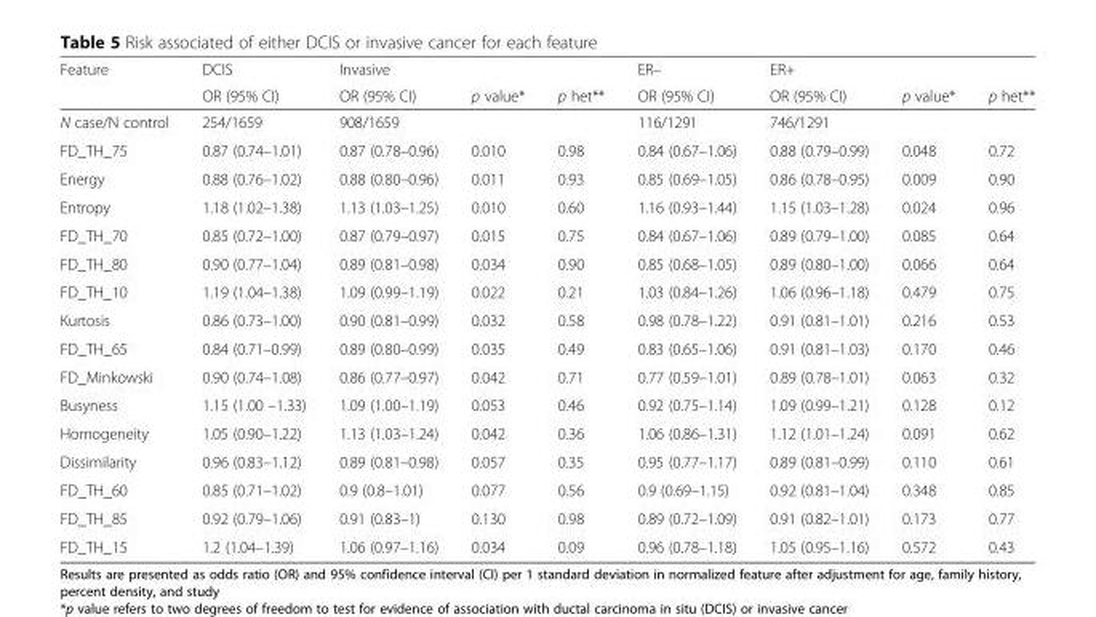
<table><thead><tr><td rowspan="2">Feature</td><td rowspan="2">DCIS OR (95% CI)</td><td rowspan="2">Invasive OR (95% CI)</td><td rowspan="2">p value*</td><td rowspan="2">p het**</td><td rowspan="2">ER– OR (95% CI)</td><td rowspan="2">ER+ OR (95% CI)</td><td rowspan="2">p value*</td><td rowspan="2">p het**</td></tr><tr></tr></thead><tbody><tr><td>N case/N control</td><td>254/1659</td><td>908/1659</td><td></td><td></td><td>116/1291</td><td>746/1291</td><td></td><td></td></tr><tr><td>FD_TH_75</td><td>0.87 (0.74–1.01)</td><td>0.87 (0.78–0.96)</td><td>0.010</td><td>0.98</td><td>0.84 (0.67–1.06)</td><td>0.88 (0.79–0.99)</td><td>0.048</td><td>0.72</td></tr><tr><td>Energy</td><td>0.88 (0.76–1.02)</td><td>0.88 (0.80–0.96)</td><td>0.011</td><td>0.93</td><td>0.85 (0.69–1.05)</td><td>0.86 (0.78–0.95)</td><td>0.009</td><td>0.90</td></tr><tr><td>Entropy</td><td>1.18 (1.02–1.38)</td><td>1.13 (1.03–1.25)</td><td>0.010</td><td>0.60</td><td>1.16 (0.93–1.44)</td><td>1.15 (1.03–1.28)</td><td>0.024</td><td>0.96</td></tr><tr><td>FD_TH_70</td><td>0.85 (0.72–1.00)</td><td>0.87 (0.79–0.97)</td><td>0.015</td><td>0.75</td><td>0.84 (0.67–1.06)</td><td>0.89 (0.79–1.00)</td><td>0.085</td><td>0.64</td></tr><tr><td>FD_TH_80</td><td>0.90 (0.77–1.04)</td><td>0.89 (0.81–0.98)</td><td>0.034</td><td>0.90</td><td>0.85 (0.68–1.05)</td><td>0.89 (0.80–1.00)</td><td>0.066</td><td>0.64</td></tr><tr><td>FD_TH_10</td><td>1.19 (1.04–1.38)</td><td>1.09 (0.99–1.19)</td><td>0.022</td><td>0.21</td><td>1.03 (0.84–1.26)</td><td>1.06 (0.96–1.18)</td><td>0.479</td><td>0.75</td></tr><tr><td>Kurtosis</td><td>0.86 (0.73–1.00)</td><td>0.90 (0.81–0.99)</td><td>0.032</td><td>0.58</td><td>0.98 (0.78–1.22)</td><td>0.91 (0.81–1.01)</td><td>0.216</td><td>0.53</td></tr><tr><td>FD_TH_65</td><td>0.84 (0.71–0.99)</td><td>0.89 (0.80–0.99)</td><td>0.035</td><td>0.49</td><td>0.83 (0.65–1.06)</td><td>0.91 (0.81–1.03)</td><td>0.170</td><td>0.46</td></tr><tr><td>FD_Minkowski</td><td>0.90 (0.74–1.08)</td><td>0.86 (0.77–0.97)</td><td>0.042</td><td>0.71</td><td>0.77 (0.59–1.01)</td><td>0.89 (0.78–1.01)</td><td>0.063</td><td>0.32</td></tr><tr><td>Busyness</td><td>1.15 (1.00 –1.33)</td><td>1.09 (1.00–1.19)</td><td>0.053</td><td>0.46</td><td>0.92 (0.75–1.14)</td><td>1.09 (0.99–1.21)</td><td>0.128</td><td>0.12</td></tr><tr><td>Homogeneity</td><td>1.05 (0.90–1.22)</td><td>1.13 (1.03–1.24)</td><td>0.042</td><td>0.36</td><td>1.06 (0.86–1.31)</td><td>1.12 (1.01–1.24)</td><td>0.091</td><td>0.62</td></tr><tr><td>Dissimilarity</td><td>0.96 (0.83–1.12)</td><td>0.89 (0.81–0.98)</td><td>0.057</td><td>0.35</td><td>0.95 (0.77–1.17)</td><td>0.89 (0.81–0.99)</td><td>0.110</td><td>0.61</td></tr><tr><td>FD_TH_60</td><td>0.85 (0.71–1.02)</td><td>0.9 (0.8–1.01)</td><td>0.077</td><td>0.56</td><td>0.9 (0.69–1.15)</td><td>0.92 (0.81–1.04)</td><td>0.348</td><td>0.85</td></tr><tr><td>FD_TH_85</td><td>0.92 (0.79–1.06)</td><td>0.91 (0.83–1)</td><td>0.130</td><td>0.98</td><td>0.89 (0.72–1.09)</td><td>0.91 (0.82–1.01)</td><td>0.173</td><td>0.77</td></tr><tr><td>FD_TH_15</td><td>1.2 (1.04–1.39)</td><td>1.06 (0.97–1.16)</td><td>0.034</td><td>0.09</td><td>0.96 (0.78–1.18)</td><td>1.05 (0.95–1.16)</td><td>0.572</td><td>0.43</td></tr></tbody></table>